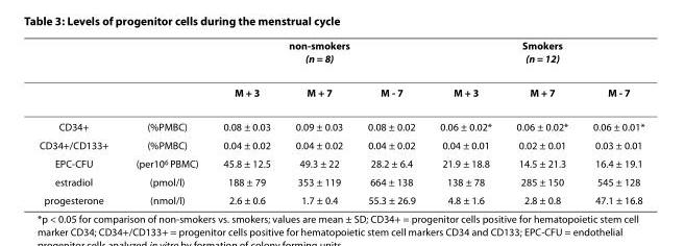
<table><thead><tr><td rowspan="2"></td><td rowspan="2"></td><td colspan="3">non-smokers (n = 8)</td><td colspan="3">Smokers (n = 12)</td></tr><tr><td>M + 3</td><td>M + 7</td><td>M - 7</td><td>M + 3</td><td>M + 7</td><td>M - 7</td></tr></thead><tbody><tr><td>CD34+</td><td>(%PMBC)</td><td>0.08 ± 0.03</td><td>0.09 ± 0.03</td><td>0.08 ± 0.02</td><td>0.06 ± 0.02*</td><td>0.06 ± 0.02*</td><td>0.06 ± 0.01*</td></tr><tr><td>CD34+/CD133+</td><td>(%PMBC)</td><td>0.04 ± 0.02</td><td>0.04 ± 0.02</td><td>0.04 ± 0.02</td><td>0.04 ± 0.01</td><td>0.02 ± 0.01</td><td>0.03 ± 0.01</td></tr><tr><td>EPC-CFU</td><td>(per10<sup>6</sup> PBMC)</td><td>45.8 ± 12.5</td><td>49.3 ± 22</td><td>28.2 ± 6.4</td><td>21.9 ± 18.8</td><td>14.5 ± 21.3</td><td>16.4 ± 19.1</td></tr><tr><td>estradiol</td><td>(pmol/l)</td><td>188 ± 79</td><td>353 ± 119</td><td>664 ± 138</td><td>138 ± 78</td><td>285 ± 150</td><td>545 ± 128</td></tr><tr><td>progesterone</td><td>(nmol/l)</td><td>2.6 ± 0.6</td><td>1.7 ± 0.4</td><td>55.3 ± 26.9</td><td>4.8 ± 1.6</td><td>2.8 ± 0.8</td><td>47.1 ± 16.8</td></tr></tbody></table>